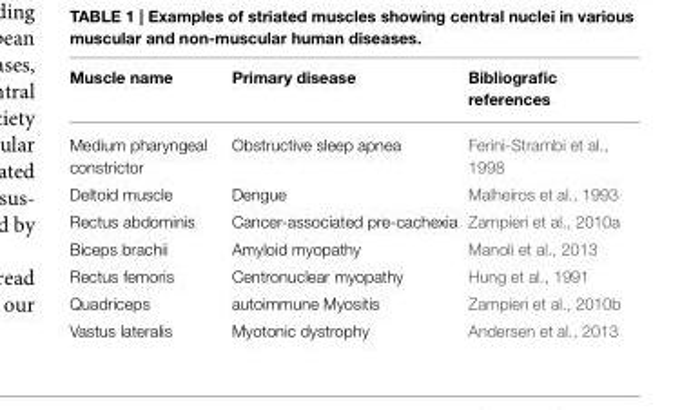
<table><thead><tr><td>Muscle name</td><td>Primary disease</td><td>Bibliografic references</td></tr></thead><tbody><tr><td>Medium pharyngeal constrictor</td><td>Obstructive sleep apnea</td><td>Ferini-Strambi et al., 1998</td></tr><tr><td>Deltoid muscle</td><td>Dengue</td><td>Malheiros et al., 1993</td></tr><tr><td>Rectus abdominis</td><td>Cancer-associated pre-cachexia</td><td>Zampieri et al., 2010a</td></tr><tr><td>Biceps brachii</td><td>Amyloid myopathy</td><td>Manoli et al., 2013</td></tr><tr><td>Rectus femoris</td><td>Centronuclear myopathy</td><td>Hung et al., 1991</td></tr><tr><td>Quadriceps</td><td>autoimmune Myositis</td><td>Zampieri et al., 2010b</td></tr><tr><td>Vastus lateralis</td><td>Myotonic dystrophy</td><td>Andersen et al., 2013</td></tr></tbody></table>